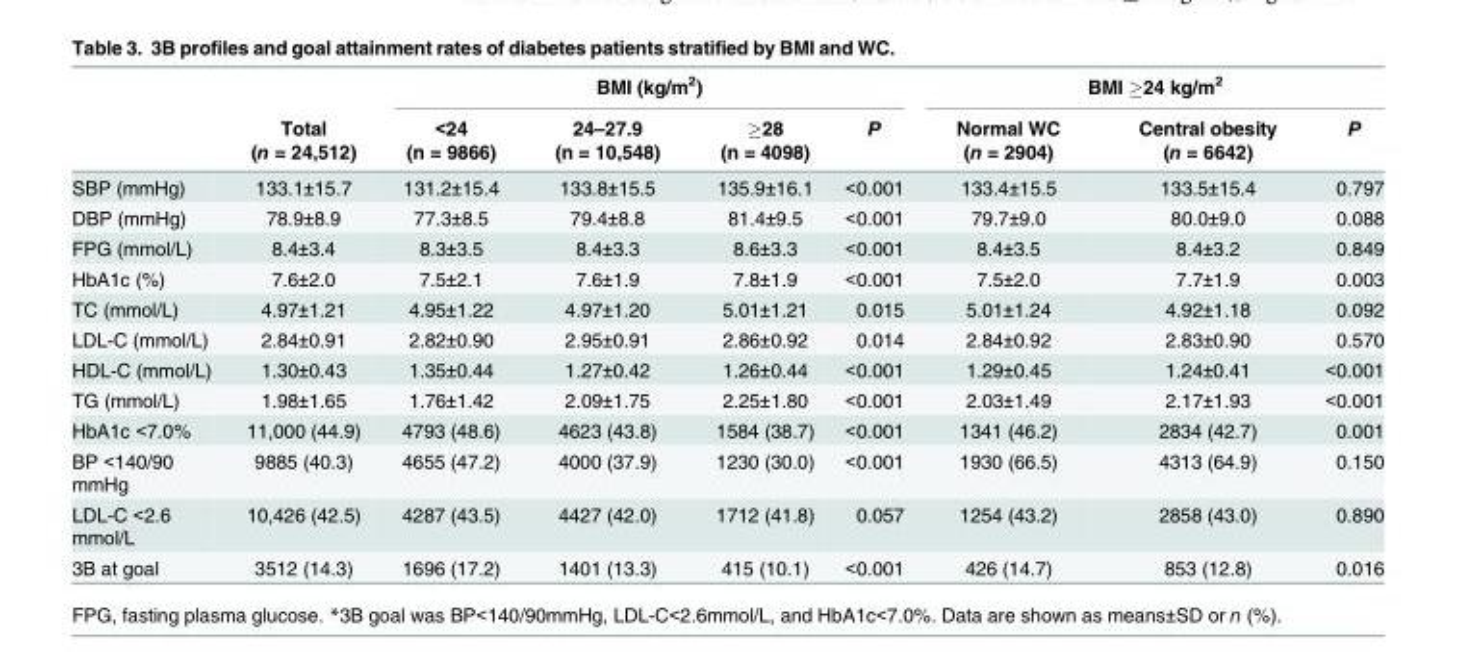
<table><thead><tr><td rowspan="2"></td><td rowspan="2">Total (n = 24,512)</td><td colspan="4">BMI (kg/m<sup>2</sup>)</td><td colspan="3">BMI ≥24 kg/m<sup>2</sup></td></tr><tr><td>&lt;24 (n = 9866)</td><td>24–27.9 (n = 10,548)</td><td>≥28 (n = 4098)</td><td>P</td><td>Normal WC (n = 2904)</td><td>Central obesity (n = 6642)</td><td>P</td></tr></thead><tbody><tr><td>SBP (mmHg)</td><td>133.1±15.7</td><td>131.2±15.4</td><td>133.8±15.5</td><td>135.9±16.1</td><td>&lt;0.001</td><td>133.4±15.5</td><td>133.5±15.4</td><td>0.797</td></tr><tr><td>DBP (mmHg)</td><td>78.9±8.9</td><td>77.3±8.5</td><td>79.4±8.8</td><td>81.4±9.5</td><td>&lt;0.001</td><td>79.7±9.0</td><td>80.0±9.0</td><td>0.088</td></tr><tr><td>FPG (mmol/L)</td><td>8.4±3.4</td><td>8.3±3.5</td><td>8.4±3.3</td><td>8.6±3.3</td><td>&lt;0.001</td><td>8.4±3.5</td><td>8.4±3.2</td><td>0.849</td></tr><tr><td>HbA1c (%)</td><td>7.6±2.0</td><td>7.5±2.1</td><td>7.6±1.9</td><td>7.8±1.9</td><td>&lt;0.001</td><td>7.5±2.0</td><td>7.7±1.9</td><td>0.003</td></tr><tr><td>TC (mmol/L)</td><td>4.97±1.21</td><td>4.95±1.22</td><td>4.97±1.20</td><td>5.01±1.21</td><td>0.015</td><td>5.01±1.24</td><td>4.92±1.18</td><td>0.092</td></tr><tr><td>LDL-C (mmol/L)</td><td>2.84±0.91</td><td>2.82±0.90</td><td>2.95±0.91</td><td>2.86±0.92</td><td>0.014</td><td>2.84±0.92</td><td>2.83±0.90</td><td>0.570</td></tr><tr><td>HDL-C (mmol/L)</td><td>1.30±0.43</td><td>1.35±0.44</td><td>1.27±0.42</td><td>1.26±0.44</td><td>&lt;0.001</td><td>1.29±0.45</td><td>1.24±0.41</td><td>&lt;0.001</td></tr><tr><td>TG (mmol/L)</td><td>1.98±1.65</td><td>1.76±1.42</td><td>2.09±1.75</td><td>2.25±1.80</td><td>&lt;0.001</td><td>2.03±1.49</td><td>2.17±1.93</td><td>&lt;0.001</td></tr><tr><td>HbA1c &lt;7.0%</td><td>11,000 (44.9)</td><td>4793 (48.6)</td><td>4623 (43.8)</td><td>1584 (38.7)</td><td>&lt;0.001</td><td>1341 (46.2)</td><td>2834 (42.7)</td><td>0.001</td></tr><tr><td>BP &lt;140/90 mmHg</td><td>9885 (40.3)</td><td>4655 (47.2)</td><td>4000 (37.9)</td><td>1230 (30.0)</td><td>&lt;0.001</td><td>1930 (66.5)</td><td>4313 (64.9)</td><td>0.150</td></tr><tr><td>LDL-C &lt;2.6 mmol/L</td><td>10,426 (42.5)</td><td>4287 (43.5)</td><td>4427 (42.0)</td><td>1712 (41.8)</td><td>0.057</td><td>1254 (43.2)</td><td>2858 (43.0)</td><td>0.890</td></tr><tr><td>3B at goal</td><td>3512 (14.3)</td><td>1696 (17.2)</td><td>1401 (13.3)</td><td>415 (10.1)</td><td>&lt;0.001</td><td>426 (14.7)</td><td>853 (12.8)</td><td>0.016</td></tr></tbody></table>